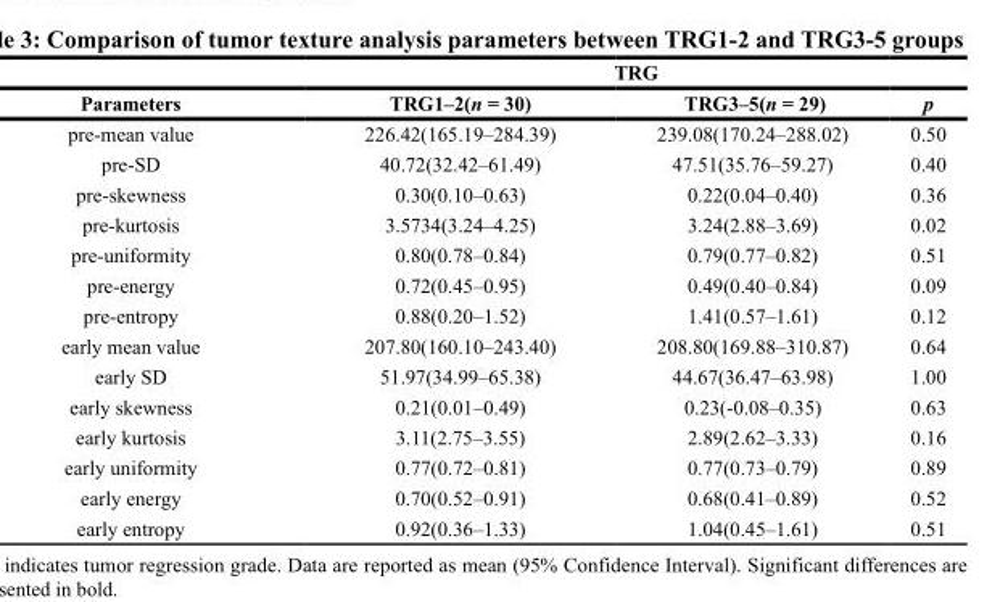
<table><thead><tr><td rowspan="2">Parameters</td><td colspan="3">TRG</td></tr><tr><td>TRG1–2(n = 30)</td><td>TRG3–5(n = 29)</td><td>p</td></tr></thead><tbody><tr><td>pre-mean value</td><td>226.42(165.19–284.39)</td><td>239.08(170.24–288.02)</td><td>0.50</td></tr><tr><td>pre-SD</td><td>40.72(32.42–61.49)</td><td>47.51(35.76–59.27)</td><td>0.40</td></tr><tr><td>pre-skewness</td><td>0.30(0.10–0.63)</td><td>0.22(0.04–0.40)</td><td>0.36</td></tr><tr><td>pre-kurtosis</td><td>3.5734(3.24–4.25)</td><td>3.24(2.88–3.69)</td><td>0.02</td></tr><tr><td>pre-uniformity</td><td>0.80(0.78–0.84)</td><td>0.79(0.77–0.82)</td><td>0.51</td></tr><tr><td>pre-energy</td><td>0.72(0.45–0.95)</td><td>0.49(0.40–0.84)</td><td>0.09</td></tr><tr><td>pre-entropy</td><td>0.88(0.20–1.52)</td><td>1.41(0.57–1.61)</td><td>0.12</td></tr><tr><td>early mean value</td><td>207.80(160.10–243.40)</td><td>208.80(169.88–310.87)</td><td>0.64</td></tr><tr><td>early SD</td><td>51.97(34.99–65.38)</td><td>44.67(36.47–63.98)</td><td>1.00</td></tr><tr><td>early skewness</td><td>0.21(0.01–0.49)</td><td>0.23(-0.08–0.35)</td><td>0.63</td></tr><tr><td>early kurtosis</td><td>3.11(2.75–3.55)</td><td>2.89(2.62–3.33)</td><td>0.16</td></tr><tr><td>early uniformity</td><td>0.77(0.72–0.81)</td><td>0.77(0.73–0.79)</td><td>0.89</td></tr><tr><td>early energy</td><td>0.70(0.52–0.91)</td><td>0.68(0.41–0.89)</td><td>0.52</td></tr><tr><td>early entropy</td><td>0.92(0.36–1.33)</td><td>1.04(0.45–1.61)</td><td>0.51</td></tr></tbody></table>